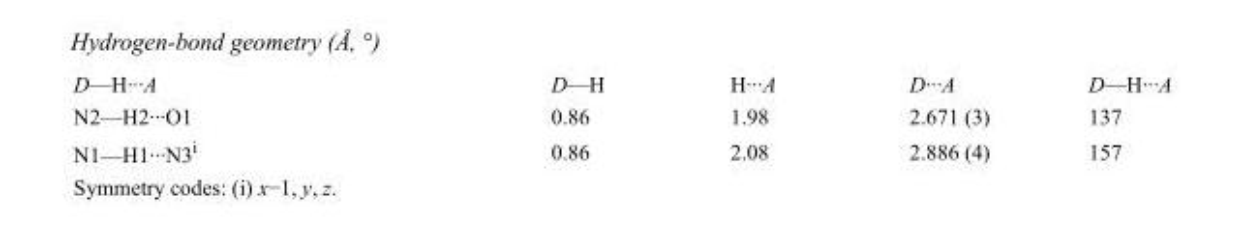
<table><tbody><tr><td>D—H···A</td><td>D—H</td><td>H···A</td><td>D···A</td><td>D—H···A</td></tr><tr><td>N2—H2···O1</td><td>0.86</td><td>1.98</td><td>2.671 (3)</td><td>137</td></tr><tr><td>N1—H1···N3<sup>i</sup></td><td>0.86</td><td>2.08</td><td>2.886 (4)</td><td>157</td></tr></tbody></table>